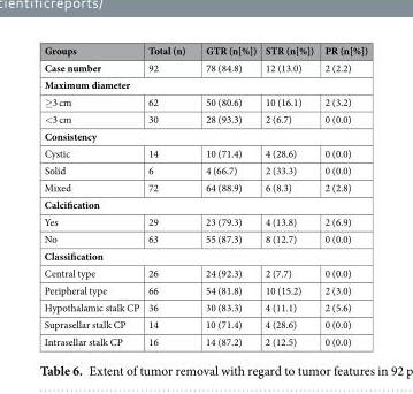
<table><thead><tr><td>Groups</td><td>Total (n)</td><td>GTR (n[%])</td><td>STR (n[%])</td><td>PR (n[%])</td></tr></thead><tbody><tr><td>Case number</td><td>92</td><td>78 (84.8)</td><td>12 (13.0)</td><td>2 (2.2)</td></tr><tr><td colspan="5">Maximum diameter</td></tr><tr><td>≥3 cm</td><td>62</td><td>50 (80.6)</td><td>10 (16.1)</td><td>2 (3.2)</td></tr><tr><td>&lt;3 cm</td><td>30</td><td>28 (93.3)</td><td>2 (6.7)</td><td>0 (0.0)</td></tr><tr><td colspan="5">Consistency</td></tr><tr><td>Cystic</td><td>14</td><td>10 (71.4)</td><td>4 (28.6)</td><td>0 (0.0)</td></tr><tr><td>Solid</td><td>6</td><td>4 (66.7)</td><td>2 (33.3)</td><td>0 (0.0)</td></tr><tr><td>Mixed</td><td>72</td><td>64 (88.9)</td><td>6 (8.3)</td><td>2 (2.8)</td></tr><tr><td colspan="5">Calcification</td></tr><tr><td>Yes</td><td>29</td><td>23 (79.3)</td><td>4 (13.8)</td><td>2 (6.9)</td></tr><tr><td>No</td><td>63</td><td>55 (87.3)</td><td>8 (12.7)</td><td>0 (0.0)</td></tr><tr><td colspan="5">Classification</td></tr><tr><td>Central type</td><td>26</td><td>24 (92.3)</td><td>2 (7.7)</td><td>0 (0.0)</td></tr><tr><td>Peripheral type</td><td>66</td><td>54 (81.8)</td><td>10 (15.2)</td><td>2 (3.0)</td></tr><tr><td>Hypothalamic stalk CP</td><td>36</td><td>30 (83.3)</td><td>4 (11.1)</td><td>2 (5.6)</td></tr><tr><td>Suprasellar stalk CP</td><td>14</td><td>10 (71.4)</td><td>4 (28.6)</td><td>0 (0.0)</td></tr><tr><td>Intrasellar stalk CP</td><td>16</td><td>14 (87.2)</td><td>2 (12.5)</td><td>0 (0.0)</td></tr></tbody></table>